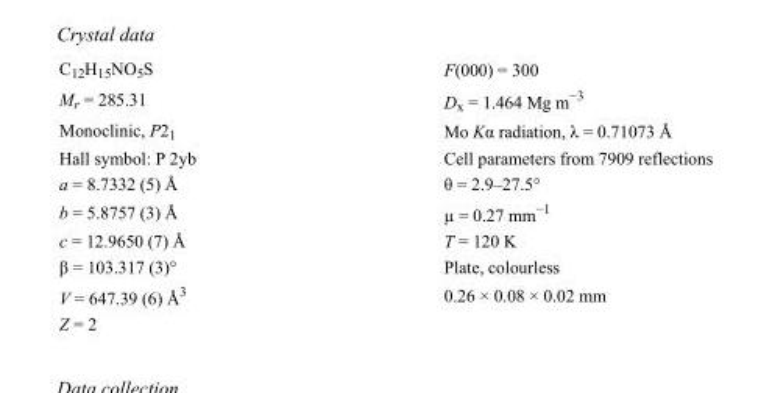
<table><tbody><tr><td>C<sub>12</sub>H<sub>15</sub>NO<sub>5</sub>S</td><td>F(000) = 300</td></tr><tr><td>M<sub>r</sub> = 285.31</td><td>D<sub>x</sub> = 1.464 Mg m<sup>−3</sup></td></tr><tr><td>Monoclinic, P2<sub>1</sub></td><td>Mo Kα radiation, λ = 0.71073 Å</td></tr><tr><td>Hall symbol: P 2yb</td><td>Cell parameters from 7909 reflections</td></tr><tr><td>a = 8.7332 (5) Å</td><td>θ = 2.9–27.5°</td></tr><tr><td>b = 5.8757 (3) Å</td><td>µ = 0.27 mm<sup>−1</sup></td></tr><tr><td>c = 12.9650 (7) Å</td><td>T = 120 K</td></tr><tr><td>β = 103.317 (3)°</td><td>Plate, colourless</td></tr><tr><td>V = 647.39 (6) Å<sup>3</sup></td><td>0.26 × 0.08 × 0.02 mm</td></tr><tr><td>Z = 2</td><td></td></tr></tbody></table>